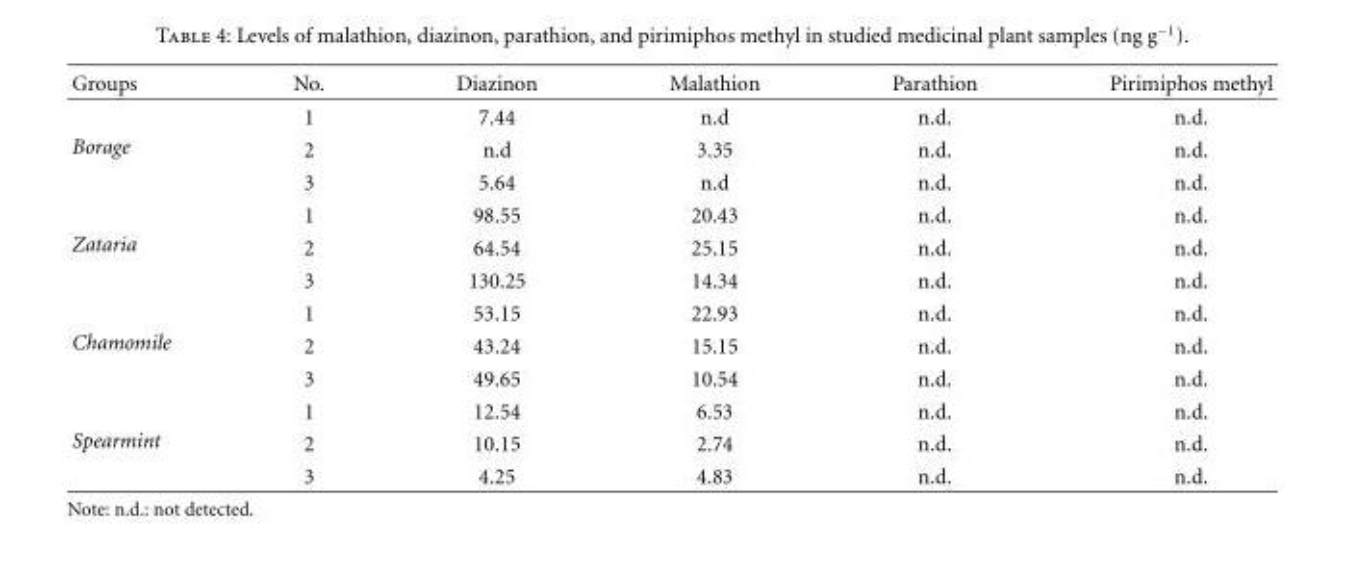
<table><thead><tr><td>Groups</td><td>No.</td><td>Diazinon</td><td>Malathion</td><td>Parathion</td><td>Pirimiphos methyl</td></tr></thead><tbody><tr><td rowspan="3">Borage</td><td>1</td><td>7.44</td><td>n.d</td><td>n.d.</td><td>n.d.</td></tr><tr><td>2</td><td>n.d</td><td>3.35</td><td>n.d.</td><td>n.d.</td></tr><tr><td>3</td><td>5.64</td><td>n.d</td><td>n.d.</td><td>n.d.</td></tr><tr><td rowspan="3">Zataria</td><td>1</td><td>98.55</td><td>20.43</td><td>n.d.</td><td>n.d.</td></tr><tr><td>2</td><td>64.54</td><td>25.15</td><td>n.d.</td><td>n.d.</td></tr><tr><td>3</td><td>130.25</td><td>14.34</td><td>n.d.</td><td>n.d.</td></tr><tr><td rowspan="3">Chamomile</td><td>1</td><td>53.15</td><td>22.93</td><td>n.d.</td><td>n.d.</td></tr><tr><td>2</td><td>43.24</td><td>15.15</td><td>n.d.</td><td>n.d.</td></tr><tr><td>3</td><td>49.65</td><td>10.54</td><td>n.d.</td><td>n.d.</td></tr><tr><td rowspan="3">Spearmint</td><td>1</td><td>12.54</td><td>6.53</td><td>n.d.</td><td>n.d.</td></tr><tr><td>2</td><td>10.15</td><td>2.74</td><td>n.d.</td><td>n.d.</td></tr><tr><td>3</td><td>4.25</td><td>4.83</td><td>n.d.</td><td>n.d.</td></tr></tbody></table>